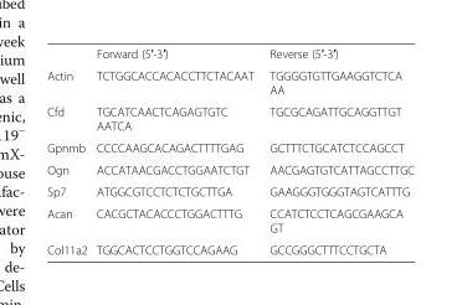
<table><thead><tr><td></td><td>Forward (5′-3′)</td><td>Reverse (5′-3′)</td></tr></thead><tbody><tr><td>Actin</td><td>TCTGGCACCACACCTTCTACAAT</td><td>TGGGGTGTTGAAGGTCTCA AA</td></tr><tr><td>Cfd</td><td>TGCATCAACTCAGAGTGTC AATCA</td><td>TGCGCAGATTGCAGGTTGT</td></tr><tr><td>Gpnmb</td><td>CCCCAAGCACAGACTTTTGAG</td><td>GCTTTCTGCATCTCCAGCCT</td></tr><tr><td>Ogn</td><td>ACCATAACGACCTGGAATCTGT</td><td>AACGAGTGTCATTAGCCTTGC</td></tr><tr><td>Sp7</td><td>ATGGCGTCCTCTCTGCTTGA</td><td>GAAGGGTGGGTAGTCATTTG</td></tr><tr><td>Acan</td><td>CACGCTACACCCTGGACTTTG</td><td>CCATCTCCTCAGCGAAGCA GT</td></tr><tr><td>Col11a2</td><td>TGGCACTCCTGGTCCAGAAG</td><td>GCCGGGCTTTCCTGCTA</td></tr></tbody></table>